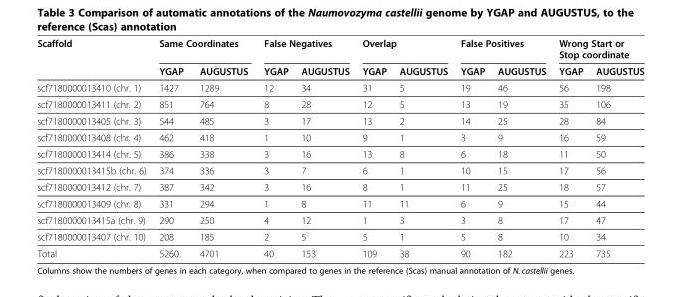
<table><thead><tr><td rowspan="2">Scaffold</td><td colspan="2">Same Coordinates</td><td colspan="2">False Negatives</td><td colspan="2">Overlap</td><td colspan="2">False Positives</td><td colspan="2">Wrong Start or Stop coordinate</td></tr><tr><td>YGAP</td><td>AUGUSTUS</td><td>YGAP</td><td>AUGUSTUS</td><td>YGAP</td><td>AUGUSTUS</td><td>YGAP</td><td>AUGUSTUS</td><td>YGAP</td><td>AUGUSTUS</td></tr></thead><tbody><tr><td>scf7180000013410 (chr. 1)</td><td>1427</td><td>1289</td><td>12</td><td>34</td><td>31</td><td>5</td><td>19</td><td>46</td><td>56</td><td>198</td></tr><tr><td>scf7180000013411 (chr. 2)</td><td>851</td><td>764</td><td>8</td><td>28</td><td>12</td><td>5</td><td>13</td><td>19</td><td>35</td><td>106</td></tr><tr><td>scf7180000013405 (chr. 3)</td><td>544</td><td>485</td><td>3</td><td>17</td><td>13</td><td>2</td><td>14</td><td>25</td><td>28</td><td>84</td></tr><tr><td>scf7180000013408 (chr. 4)</td><td>462</td><td>418</td><td>1</td><td>10</td><td>9</td><td>1</td><td>3</td><td>9</td><td>16</td><td>59</td></tr><tr><td>scf7180000013414 (chr. 5)</td><td>386</td><td>338</td><td>3</td><td>16</td><td>13</td><td>8</td><td>6</td><td>18</td><td>11</td><td>50</td></tr><tr><td>scf7180000013415b (chr. 6)</td><td>374</td><td>336</td><td>3</td><td>7</td><td>6</td><td>1</td><td>10</td><td>15</td><td>17</td><td>56</td></tr><tr><td>scf7180000013412 (chr. 7)</td><td>387</td><td>342</td><td>3</td><td>16</td><td>8</td><td>1</td><td>11</td><td>25</td><td>18</td><td>57</td></tr><tr><td>scf7180000013409 (chr. 8)</td><td>331</td><td>294</td><td>1</td><td>8</td><td>11</td><td>11</td><td>6</td><td>9</td><td>15</td><td>44</td></tr><tr><td>scf7180000013415a (chr. 9)</td><td>290</td><td>250</td><td>4</td><td>12</td><td>1</td><td>3</td><td>3</td><td>8</td><td>17</td><td>47</td></tr><tr><td>scf7180000013407 (chr. 10)</td><td>208</td><td>185</td><td>2</td><td>5</td><td>5</td><td>1</td><td>5</td><td>8</td><td>10</td><td>34</td></tr><tr><td>Total</td><td>5260</td><td>4701</td><td>40</td><td>153</td><td>109</td><td>38</td><td>90</td><td>182</td><td>223</td><td>735</td></tr></tbody></table>